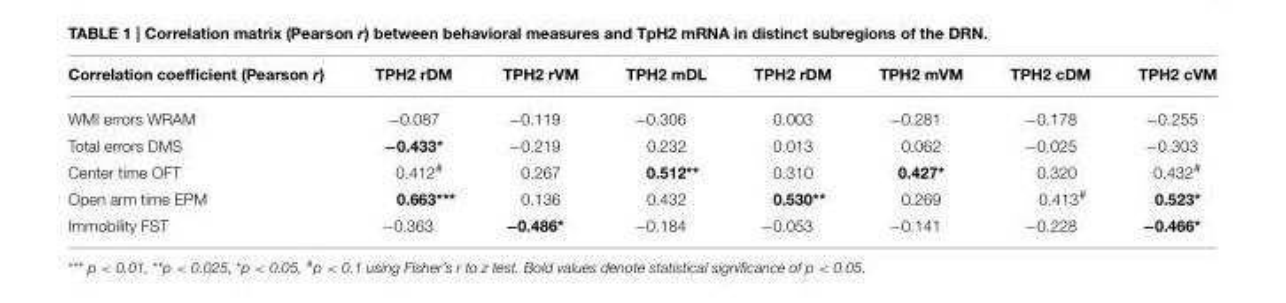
<table><thead><tr><td>Correlation coefficient (Pearson r)</td><td>TPH2 rDM</td><td>TPH2 rVM</td><td>TPH2 mDL</td><td>TPH2 rDM</td><td>TPH2 mVM</td><td>TPH2 cDM</td><td>TPH2 cVM</td></tr></thead><tbody><tr><td>WMI errors WRAM</td><td>−0.087</td><td>−0.119</td><td>−0.306</td><td>0.003</td><td>−0.281</td><td>−0.178</td><td>−0.255</td></tr><tr><td>Total errors DMS</td><td>−0.433*</td><td>−0.219</td><td>0.232</td><td>0.013</td><td>0.062</td><td>−0.025</td><td>−0.303</td></tr><tr><td>Center time OFT</td><td>0.412<sup>#</sup></td><td>0.267</td><td>0.512**</td><td>0.310</td><td>0.427*</td><td>0.320</td><td>0.432<sup>#</sup></td></tr><tr><td>Open arm time EPM</td><td>0.663***</td><td>0.136</td><td>0.432</td><td>0.530**</td><td>0.269</td><td>0.413<sup>#</sup></td><td>0.523*</td></tr><tr><td>Immobility FST</td><td>−0.363</td><td>−0.486*</td><td>−0.184</td><td>−0.053</td><td>−0.141</td><td>−0.228</td><td>−0.466*</td></tr></tbody></table>